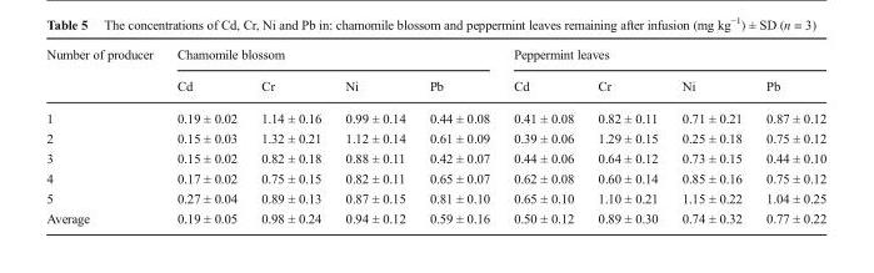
<table><thead><tr><td rowspan="2">Number of producer</td><td colspan="4">Chamomile blossom</td><td colspan="4">Peppermint leaves</td></tr><tr><td>Cd</td><td>Cr</td><td>Ni</td><td>Pb</td><td>Cd</td><td>Cr</td><td>Ni</td><td>Pb</td></tr></thead><tbody><tr><td>1</td><td>0.19 ± 0.02</td><td>1.14 ± 0.16</td><td>0.99 ± 0.14</td><td>0.44 ± 0.08</td><td>0.41 ± 0.08</td><td>0.82 ± 0.11</td><td>0.71 ± 0.21</td><td>0.87 ± 0.12</td></tr><tr><td>2</td><td>0.15 ± 0.03</td><td>1.32 ± 0.21</td><td>1.12 ± 0.14</td><td>0.61 ± 0.09</td><td>0.39 ± 0.06</td><td>1.29 ± 0.15</td><td>0.25 ± 0.18</td><td>0.75 ± 0.12</td></tr><tr><td>3</td><td>0.15 ± 0.02</td><td>0.82 ± 0.18</td><td>0.88 ± 0.11</td><td>0.42 ± 0.07</td><td>0.44 ± 0.06</td><td>0.64 ± 0.12</td><td>0.73 ± 0.15</td><td>0.44 ± 0.10</td></tr><tr><td>4</td><td>0.17 ± 0.02</td><td>0.75 ± 0.15</td><td>0.82 ± 0.11</td><td>0.65 ± 0.07</td><td>0.62 ± 0.08</td><td>0.60 ± 0.14</td><td>0.85 ± 0.16</td><td>0.75 ± 0.12</td></tr><tr><td>5</td><td>0.27 ± 0.04</td><td>0.89 ± 0.13</td><td>0.87 ± 0.15</td><td>0.81 ± 0.10</td><td>0.65 ± 0.10</td><td>1.10 ± 0.21</td><td>1.15 ± 0.22</td><td>1.04 ± 0.25</td></tr><tr><td>Average</td><td>0.19 ± 0.05</td><td>0.98 ± 0.24</td><td>0.94 ± 0.12</td><td>0.59 ± 0.16</td><td>0.50 ± 0.12</td><td>0.89 ± 0.30</td><td>0.74 ± 0.32</td><td>0.77 ± 0.22</td></tr></tbody></table>